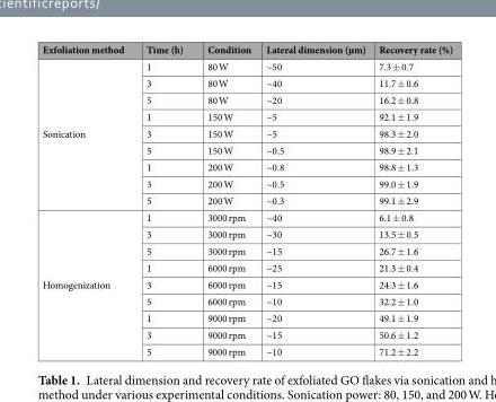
<table><thead><tr><td>Exfoliation method</td><td>Time (h)</td><td>Condition</td><td>Lateral dimension (µm)</td><td>Recovery rate (%)</td></tr></thead><tbody><tr><td rowspan="9">Sonication</td><td>1</td><td>80 W</td><td>~50</td><td>7.3 ± 0.7</td></tr><tr><td>3</td><td>80 W</td><td>~40</td><td>11.7 ± 0.6</td></tr><tr><td>5</td><td>80 W</td><td>~20</td><td>16.2 ± 0.8</td></tr><tr><td>1</td><td>150 W</td><td>~5</td><td>92.1 ± 1.9</td></tr><tr><td>3</td><td>150 W</td><td>~5</td><td>98.3 ± 2.0</td></tr><tr><td>5</td><td>150 W</td><td>~0.5</td><td>98.9 ± 2.1</td></tr><tr><td>1</td><td>200 W</td><td>~0.8</td><td>98.8 ± 1.3</td></tr><tr><td>3</td><td>200 W</td><td>~0.5</td><td>99.0 ± 1.9</td></tr><tr><td>5</td><td>200 W</td><td>~0.3</td><td>99.1 ± 2.9</td></tr><tr><td rowspan="9">Homogenization</td><td>1</td><td>3000 rpm</td><td>~40</td><td>6.1 ± 0.8</td></tr><tr><td>3</td><td>3000 rpm</td><td>~30</td><td>13.5 ± 0.5</td></tr><tr><td>5</td><td>3000 rpm</td><td>~15</td><td>26.7 ± 1.6</td></tr><tr><td>1</td><td>6000 rpm</td><td>~25</td><td>21.3 ± 0.4</td></tr><tr><td>3</td><td>6000 rpm</td><td>~15</td><td>24.3 ± 1.6</td></tr><tr><td>5</td><td>6000 rpm</td><td>~10</td><td>32.2 ± 1.0</td></tr><tr><td>1</td><td>9000 rpm</td><td>~20</td><td>49.1 ± 1.9</td></tr><tr><td>3</td><td>9000 rpm</td><td>~15</td><td>50.6 ± 1.2</td></tr><tr><td>5</td><td>9000 rpm</td><td>~10</td><td>71.2 ± 2.2</td></tr></tbody></table>